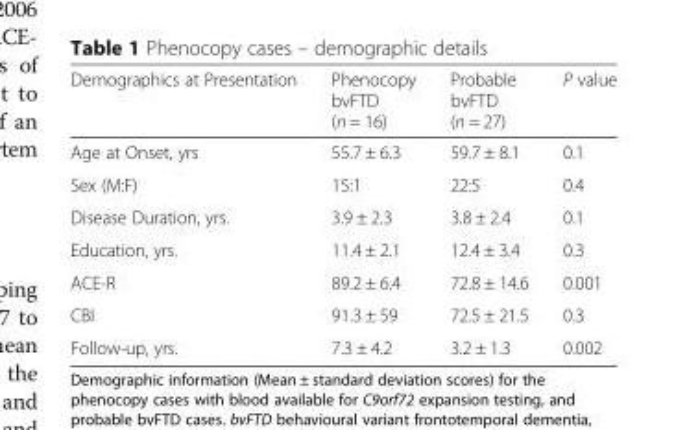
<table><thead><tr><td>Demographics at Presentation</td><td>Phenocopy bvFTD (n = 16)</td><td>Probable bvFTD (n = 27)</td><td>P value</td></tr></thead><tbody><tr><td>Age at Onset, yrs</td><td>55.7 ± 6.3</td><td>59.7 ± 8.1</td><td>0.1</td></tr><tr><td>Sex (M:F)</td><td>15:1</td><td>22:5</td><td>0.4</td></tr><tr><td>Disease Duration, yrs.</td><td>3.9 ± 2.3</td><td>3.8 ± 2.4</td><td>0.1</td></tr><tr><td>Education, yrs.</td><td>11.4 ± 2.1</td><td>12.4 ± 3.4</td><td>0.3</td></tr><tr><td>ACE-R</td><td>89.2 ± 6.4</td><td>72.8 ± 14.6</td><td>0.001</td></tr><tr><td>CBI</td><td>91.3 ± 59</td><td>72.5 ± 21.5</td><td>0.3</td></tr><tr><td>Follow-up, yrs.</td><td>7.3 ± 4.2</td><td>3.2 ± 1.3</td><td>0.002</td></tr></tbody></table>